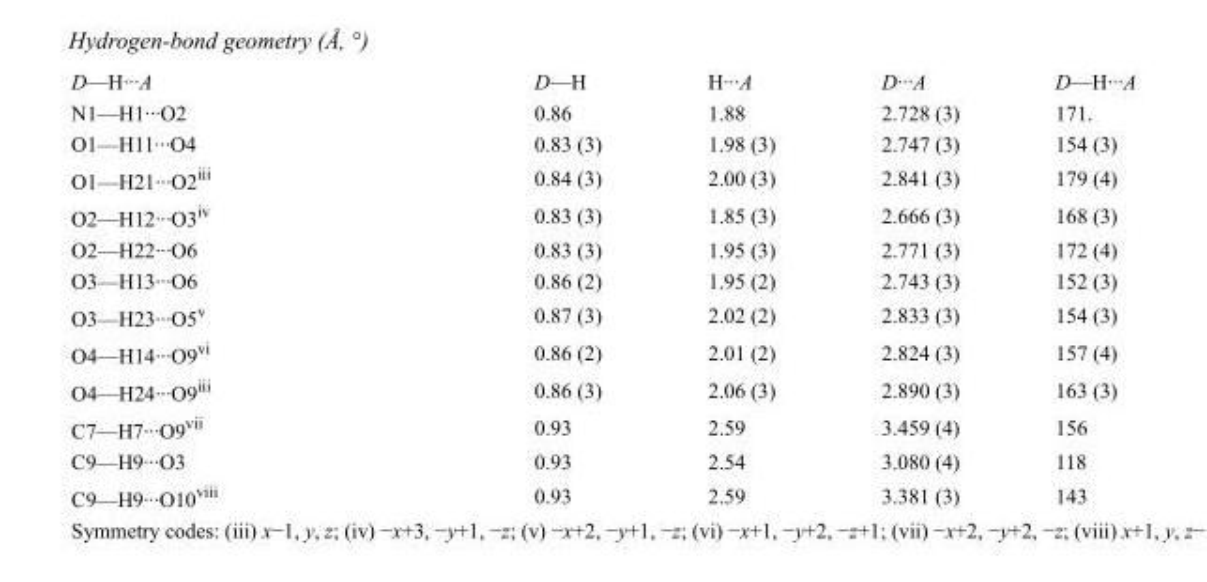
<table><tbody><tr><td>D—H···A</td><td>D—H</td><td>H···A</td><td>D···A</td><td>D—H···A</td></tr><tr><td>N1—H1···O2</td><td>0.86</td><td>1.88</td><td>2.728 (3)</td><td>171.</td></tr><tr><td>O1—H11···O4</td><td>0.83 (3)</td><td>1.98 (3)</td><td>2.747 (3)</td><td>154 (3)</td></tr><tr><td>O1—H21···O2<sup>iii</sup></td><td>0.84 (3)</td><td>2.00 (3)</td><td>2.841 (3)</td><td>179 (4)</td></tr><tr><td>O2—H12···O3<sup>iv</sup></td><td>0.83 (3)</td><td>1.85 (3)</td><td>2.666 (3)</td><td>168 (3)</td></tr><tr><td>O2—H22···O6</td><td>0.83 (3)</td><td>1.95 (3)</td><td>2.771 (3)</td><td>172 (4)</td></tr><tr><td>O3—H13···O6</td><td>0.86 (2)</td><td>1.95 (2)</td><td>2.743 (3)</td><td>152 (3)</td></tr><tr><td>O3—H23···O5<sup>v</sup></td><td>0.87 (3)</td><td>2.02 (2)</td><td>2.833 (3)</td><td>154 (3)</td></tr><tr><td>O4—H14···O9<sup>vi</sup></td><td>0.86 (2)</td><td>2.01 (2)</td><td>2.824 (3)</td><td>157 (4)</td></tr><tr><td>O4—H24···O9<sup>iii</sup></td><td>0.86 (3)</td><td>2.06 (3)</td><td>2.890 (3)</td><td>163 (3)</td></tr><tr><td>C7—H7···O9<sup>vii</sup></td><td>0.93</td><td>2.59</td><td>3.459 (4)</td><td>156</td></tr><tr><td>C9—H9···O3</td><td>0.93</td><td>2.54</td><td>3.080 (4)</td><td>118</td></tr><tr><td>C9—H9···O10<sup>viii</sup></td><td>0.93</td><td>2.59</td><td>3.381 (3)</td><td>143</td></tr></tbody></table>